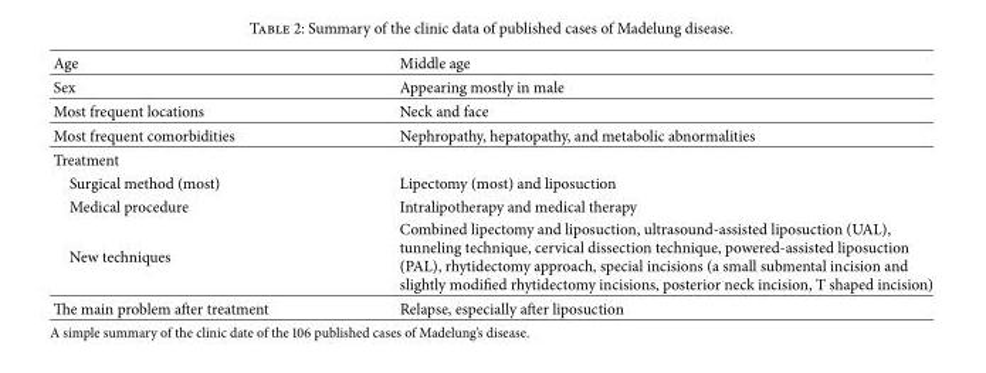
<table><tbody><tr><td>Age</td><td>Middle age</td></tr><tr><td>Sex</td><td>Appearing mostly in male</td></tr><tr><td>Most frequent locations</td><td>Neck and face</td></tr><tr><td>Most frequent comorbidities</td><td>Nephropathy, hepatopathy, and metabolic abnormalities</td></tr><tr><td colspan="2">Treatment</td></tr><tr><td>Surgical method (most)</td><td>Lipectomy (most) and liposuction</td></tr><tr><td>Medical procedure</td><td>Intralipotherapy and medical therapy</td></tr><tr><td>New techniques</td><td>Combined lipectomy and liposuction, ultrasound-assisted liposuction (UAL), tunneling technique, cervical dissection technique, powered-assisted liposuction (PAL), rhytidectomy approach, special incisions (a small submental incision and slightly modified rhytidectomy incisions, posterior neck incision, T shaped incision)</td></tr><tr><td>The main problem after treatment</td><td>Relapse, especially after liposuction</td></tr></tbody></table>